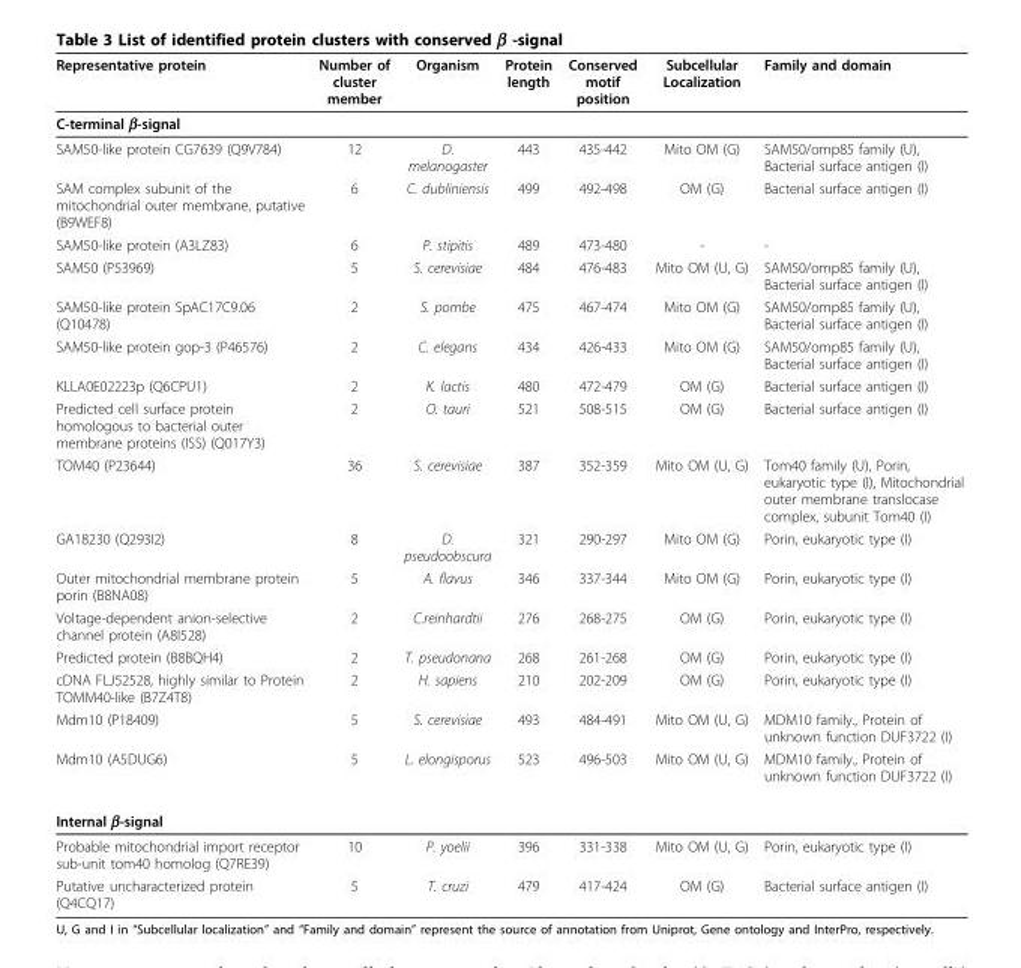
<table><thead><tr><td>Representative protein</td><td>Number of cluster member</td><td>Organism</td><td>Protein length</td><td>Conserved motif position</td><td>Subcellular Localization</td><td>Family and domain</td></tr></thead><tbody><tr><td colspan="7">C-terminal β-signal</td></tr><tr><td>SAM50-like protein CG7639 (Q9V784)</td><td>12</td><td>D. melanogaster</td><td>443</td><td>435-442</td><td>Mito OM (G)</td><td>SAM50/omp85 family (U), Bacterial surface antigen (I)</td></tr><tr><td>SAM complex subunit of the mitochondrial outer membrane, putative (B9WEF8)</td><td>6</td><td>C. dubliniensis</td><td>499</td><td>492-498</td><td>OM (G)</td><td>Bacterial surface antigen (I)</td></tr><tr><td>SAM50-like protein (A3LZ83)</td><td>6</td><td>P. stipitis</td><td>489</td><td>473-480</td><td>-</td><td>-</td></tr><tr><td>SAM50 (P53969)</td><td>5</td><td>S. cerevisiae</td><td>484</td><td>476-483</td><td>Mito OM (U, G)</td><td>SAM50/omp85 family (U), Bacterial surface antigen (I)</td></tr><tr><td>SAM50-like protein SpAC17C9.06 (Q10478)</td><td>2</td><td>S. pombe</td><td>475</td><td>467-474</td><td>Mito OM (G)</td><td>SAM50/omp85 family (U), Bacterial surface antigen (I)</td></tr><tr><td>SAM50-like protein gop-3 (P46576)</td><td>2</td><td>C. elegans</td><td>434</td><td>426-433</td><td>Mito OM (G)</td><td>SAM50/omp85 family (U), Bacterial surface antigen (I)</td></tr><tr><td>KLLA0E02223p (Q6CPU1)</td><td>2</td><td>K. lactis</td><td>480</td><td>472-479</td><td>OM (G)</td><td>Bacterial surface antigen (I)</td></tr><tr><td>Predicted cell surface protein homologous to bacterial outer membrane proteins (ISS) (Q017Y3)</td><td>2</td><td>O. tauri</td><td>521</td><td>508-515</td><td>OM (G)</td><td>Bacterial surface antigen (I)</td></tr><tr><td>TOM40 (P23644)</td><td>36</td><td>S. cerevisiae</td><td>387</td><td>352-359</td><td>Mito OM (U, G)</td><td>Tom40 family (U), Porin, eukaryotic type (I), Mitochondrial outer membrane translocase complex, subunit Tom40 (I)</td></tr><tr><td>GA18230 (Q293I2)</td><td>8</td><td>D. pseudoobscura</td><td>321</td><td>290-297</td><td>Mito OM (G)</td><td>Porin, eukaryotic type (I)</td></tr><tr><td>Outer mitochondrial membrane protein porin (B8NA08)</td><td>5</td><td>A. flavus</td><td>346</td><td>337-344</td><td>Mito OM (G)</td><td>Porin, eukaryotic type (I)</td></tr><tr><td>Voltage-dependent anion-selective channel protein (A8I528)</td><td>2</td><td>C.reinhardtii</td><td>276</td><td>268-275</td><td>OM (G)</td><td>Porin, eukaryotic type (I)</td></tr><tr><td>Predicted protein (B8BQH4)</td><td>2</td><td>T. pseudonana</td><td>268</td><td>261-268</td><td>OM (G)</td><td>Porin, eukaryotic type (I)</td></tr><tr><td>cDNA FLJ52528, highly similar to Protein TOMM40-like (B7Z4T8)</td><td>2</td><td>H. sapiens</td><td>210</td><td>202-209</td><td>OM (G)</td><td>Porin, eukaryotic type (I)</td></tr><tr><td>Mdm10 (P18409)</td><td>5</td><td>S. cerevisiae</td><td>493</td><td>484-491</td><td>Mito OM (U, G)</td><td>MDM10 family., Protein of unknown function DUF3722 (I)</td></tr><tr><td>Mdm10 (A5DUG6)</td><td>5</td><td>L. elongisporus</td><td>523</td><td>496-503</td><td>Mito OM (U, G)</td><td>MDM10 family., Protein of unknown function DUF3722 (I)</td></tr><tr><td colspan="7">Internal β-signal</td></tr><tr><td>Probable mitochondrial import receptor sub-unit tom40 homolog (Q7RE39)</td><td>10</td><td>P. yoelii</td><td>396</td><td>331-338</td><td>Mito OM (U, G)</td><td>Porin, eukaryotic type (I)</td></tr><tr><td>Putative uncharacterized protein (Q4CQ17)</td><td>5</td><td>T. cruzi</td><td>479</td><td>417-424</td><td>OM (G)</td><td>Bacterial surface antigen (I)</td></tr></tbody></table>